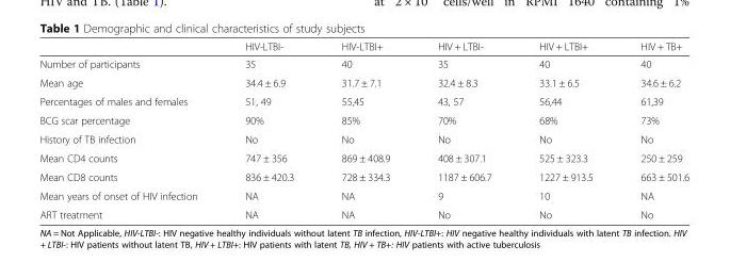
<table><thead><tr><td></td><td>HIV-LTBI-</td><td>HIV-LTBI+</td><td>HIV + LTBI-</td><td>HIV + LTBI+</td><td>HIV + TB+</td></tr></thead><tbody><tr><td>Number of participants</td><td>35</td><td>40</td><td>35</td><td>40</td><td>40</td></tr><tr><td>Mean age</td><td>34.4 ± 6.9</td><td>31.7 ± 7.1</td><td>32.4 ± 8.3</td><td>33.1 ± 6.5</td><td>34.6 ± 6.2</td></tr><tr><td>Percentages of males and females</td><td>51, 49</td><td>55,45</td><td>43, 57</td><td>56,44</td><td>61,39</td></tr><tr><td>BCG scar percentage</td><td>90%</td><td>85%</td><td>70%</td><td>68%</td><td>73%</td></tr><tr><td>History of TB infection</td><td>No</td><td>No</td><td>No</td><td>No</td><td>No</td></tr><tr><td>Mean CD4 counts</td><td>747 ± 356</td><td>869 ± 408.9</td><td>408 ± 307.1</td><td>525 ± 323.3</td><td>250 ± 259</td></tr><tr><td>Mean CD8 counts</td><td>836 ± 420.3</td><td>728 ± 334.3</td><td>1187 ± 606.7</td><td>1227 ± 913.5</td><td>663 ± 501.6</td></tr><tr><td>Mean years of onset of HIV infection</td><td>NA</td><td>NA</td><td>9</td><td>10</td><td>NA</td></tr><tr><td>ART treatment</td><td>NA</td><td>NA</td><td>No</td><td>No</td><td>No</td></tr></tbody></table>